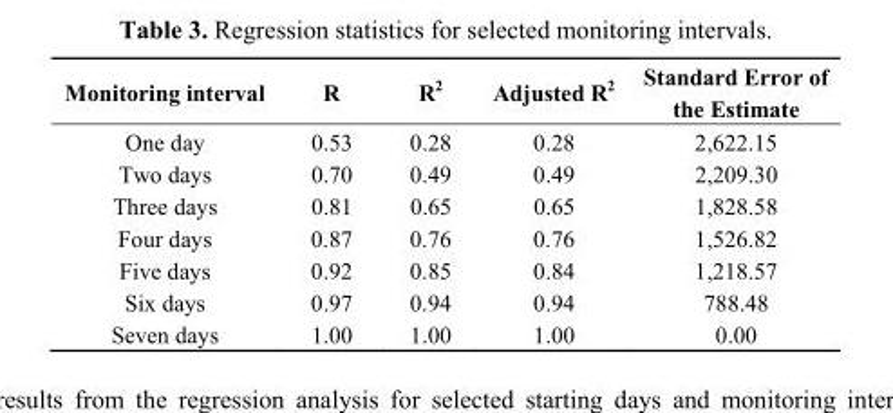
<table><thead><tr><td>Monitoring interval</td><td>R</td><td>R<sup>2</sup></td><td>Adjusted R<sup>2</sup></td><td>Standard Error of the Estimate</td></tr></thead><tbody><tr><td>One day</td><td>0.53</td><td>0.28</td><td>0.28</td><td>2,622.15</td></tr><tr><td>Two days</td><td>0.70</td><td>0.49</td><td>0.49</td><td>2,209.30</td></tr><tr><td>Three days</td><td>0.81</td><td>0.65</td><td>0.65</td><td>1,828.58</td></tr><tr><td>Four days</td><td>0.87</td><td>0.76</td><td>0.76</td><td>1,526.82</td></tr><tr><td>Five days</td><td>0.92</td><td>0.85</td><td>0.84</td><td>1,218.57</td></tr><tr><td>Six days</td><td>0.97</td><td>0.94</td><td>0.94</td><td>788.48</td></tr><tr><td>Seven days</td><td>1.00</td><td>1.00</td><td>1.00</td><td>0.00</td></tr></tbody></table>